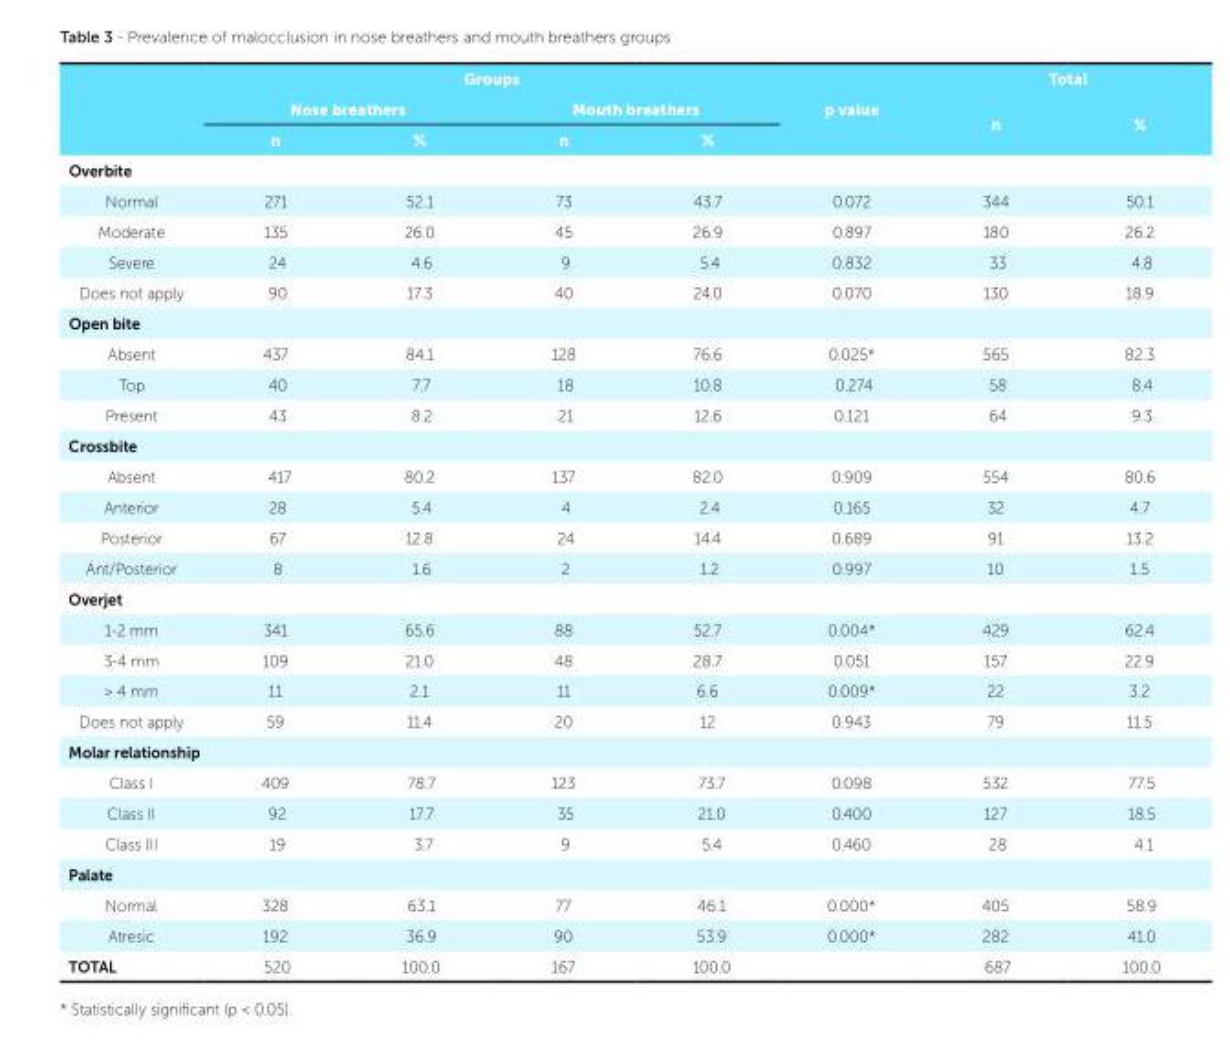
<table><thead><tr><td rowspan="3"></td><td colspan="4">Groups</td><td rowspan="3">p value</td><td colspan="2">Total</td></tr><tr><td colspan="2">Nose breathers</td><td colspan="2">Mouth breathers</td><td rowspan="2">n</td><td rowspan="2">%</td></tr><tr><td>n</td><td>%</td><td>n</td><td>%</td></tr></thead><tbody><tr><td colspan="8">Overbite</td></tr><tr><td>Normal</td><td>271</td><td>52.1</td><td>73</td><td>43.7</td><td>0.072</td><td>344</td><td>50.1</td></tr><tr><td>Moderate</td><td>135</td><td>26.0</td><td>45</td><td>26.9</td><td>0.897</td><td>180</td><td>26.2</td></tr><tr><td>Severe</td><td>24</td><td>4.6</td><td>9</td><td>5.4</td><td>0.832</td><td>33</td><td>4.8</td></tr><tr><td>Does not apply</td><td>90</td><td>17.3</td><td>40</td><td>24.0</td><td>0.070</td><td>130</td><td>18.9</td></tr><tr><td colspan="8">Open bite</td></tr><tr><td>Absent</td><td>437</td><td>84.1</td><td>128</td><td>76.6</td><td>0.025*</td><td>565</td><td>82.3</td></tr><tr><td>Top</td><td>40</td><td>7.7</td><td>18</td><td>10.8</td><td>0.274</td><td>58</td><td>8.4</td></tr><tr><td>Present</td><td>43</td><td>8.2</td><td>21</td><td>12.6</td><td>0.121</td><td>64</td><td>9.3</td></tr><tr><td colspan="8">Crossbite</td></tr><tr><td>Absent</td><td>417</td><td>80.2</td><td>137</td><td>82.0</td><td>0.909</td><td>554</td><td>80.6</td></tr><tr><td>Anterior</td><td>28</td><td>5.4</td><td>4</td><td>2.4</td><td>0.165</td><td>32</td><td>4.7</td></tr><tr><td>Posterior</td><td>67</td><td>12.8</td><td>24</td><td>14.4</td><td>0.689</td><td>91</td><td>13.2</td></tr><tr><td>Ant/Posterior</td><td>8</td><td>1.6</td><td>2</td><td>1.2</td><td>0.997</td><td>10</td><td>1.5</td></tr><tr><td colspan="8">Overjet</td></tr><tr><td>1-2 mm</td><td>341</td><td>65.6</td><td>88</td><td>52.7</td><td>0.004*</td><td>429</td><td>62.4</td></tr><tr><td>3-4 mm</td><td>109</td><td>21.0</td><td>48</td><td>28.7</td><td>0.051</td><td>157</td><td>22.9</td></tr><tr><td>&gt; 4 mm</td><td>11</td><td>2.1</td><td>11</td><td>6.6</td><td>0.009*</td><td>22</td><td>3.2</td></tr><tr><td>Does not apply</td><td>59</td><td>11.4</td><td>20</td><td>12</td><td>0.943</td><td>79</td><td>11.5</td></tr><tr><td colspan="8">Molar relationship</td></tr><tr><td>Class I</td><td>409</td><td>78.7</td><td>123</td><td>73.7</td><td>0.098</td><td>532</td><td>77.5</td></tr><tr><td>Class II</td><td>92</td><td>17.7</td><td>35</td><td>21.0</td><td>0.400</td><td>127</td><td>18.5</td></tr><tr><td>Class III</td><td>19</td><td>3.7</td><td>9</td><td>5.4</td><td>0.460</td><td>28</td><td>4.1</td></tr><tr><td colspan="8">Palate</td></tr><tr><td>Normal</td><td>328</td><td>63.1</td><td>77</td><td>46.1</td><td>0.000*</td><td>405</td><td>58.9</td></tr><tr><td>Atresic</td><td>192</td><td>36.9</td><td>90</td><td>53.9</td><td>0.000*</td><td>282</td><td>41.0</td></tr><tr><td>TOTAL</td><td>520</td><td>100.0</td><td>167</td><td>100.0</td><td></td><td>687</td><td>100.0</td></tr></tbody></table>